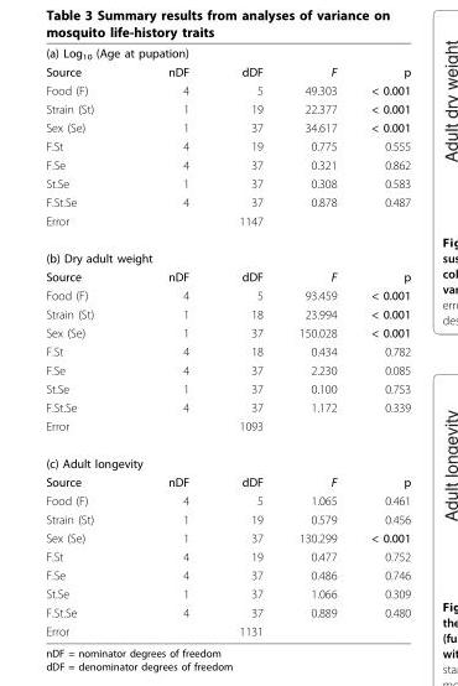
<table><tbody><tr><td colspan="5">(a) Log10 (Age at pupation)</td></tr><tr><td>Source</td><td>nDF</td><td>dDF</td><td>F</td><td>p</td></tr><tr><td>Food (F)</td><td>4</td><td>5</td><td>49.303</td><td>&lt; 0.001</td></tr><tr><td>Strain (St)</td><td>1</td><td>19</td><td>22.377</td><td>&lt; 0.001</td></tr><tr><td>Sex (Se)</td><td>1</td><td>37</td><td>34.617</td><td>&lt; 0.001</td></tr><tr><td>F.St</td><td>4</td><td>19</td><td>0.775</td><td>0.555</td></tr><tr><td>F.Se</td><td>4</td><td>37</td><td>0.321</td><td>0.862</td></tr><tr><td>St.Se</td><td>1</td><td>37</td><td>0.308</td><td>0.583</td></tr><tr><td>F.St.Se</td><td>4</td><td>37</td><td>0.878</td><td>0.487</td></tr><tr><td>Error</td><td></td><td>1147</td><td></td><td></td></tr><tr><td colspan="5">(b) Dry adult weight</td></tr><tr><td>Source</td><td>nDF</td><td>dDF</td><td>F</td><td>p</td></tr><tr><td>Food (F)</td><td>4</td><td>5</td><td>93.459</td><td>&lt; 0.001</td></tr><tr><td>Strain (St)</td><td>1</td><td>18</td><td>23.994</td><td>&lt; 0.001</td></tr><tr><td>Sex (Se)</td><td>1</td><td>37</td><td>150.028</td><td>&lt; 0.001</td></tr><tr><td>F.St</td><td>4</td><td>18</td><td>0.434</td><td>0.782</td></tr><tr><td>F.Se</td><td>4</td><td>37</td><td>2.230</td><td>0.085</td></tr><tr><td>St.Se</td><td>1</td><td>37</td><td>0.100</td><td>0.753</td></tr><tr><td>F.St.Se</td><td>4</td><td>37</td><td>1.172</td><td>0.339</td></tr><tr><td>Error</td><td></td><td>1093</td><td></td><td></td></tr><tr><td colspan="5">(c) Adult longevity</td></tr><tr><td>Source</td><td>nDF</td><td>dDF</td><td>F</td><td>p</td></tr><tr><td>Food (F)</td><td>4</td><td>5</td><td>1.065</td><td>0.461</td></tr><tr><td>Strain (St)</td><td>1</td><td>19</td><td>0.579</td><td>0.456</td></tr><tr><td>Sex (Se)</td><td>1</td><td>37</td><td>130.299</td><td>&lt; 0.001</td></tr><tr><td>F.St</td><td>4</td><td>19</td><td>0.477</td><td>0.752</td></tr><tr><td>F.Se</td><td>4</td><td>37</td><td>0.486</td><td>0.746</td></tr><tr><td>St.Se</td><td>1</td><td>37</td><td>1.066</td><td>0.309</td></tr><tr><td>F.St.Se</td><td>4</td><td>37</td><td>0.889</td><td>0.480</td></tr><tr><td>Error</td><td></td><td>1131</td><td></td><td></td></tr></tbody></table>